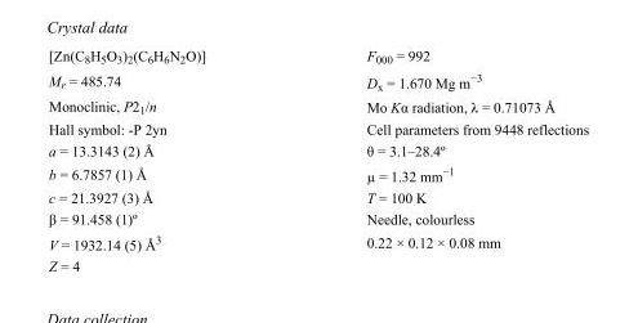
<table><tbody><tr><td>[Zn(C<sub>8</sub>H<sub>5</sub>O<sub>3</sub>)<sub>2</sub>(C<sub>6</sub>H<sub>6</sub>N<sub>2</sub>O)]</td><td>F000 = 992</td></tr><tr><td>M<sub>r</sub> = 485.74</td><td>D<sub>x</sub> = 1.670 Mg m<sup>−3</sup></td></tr><tr><td>Monoclinic, P2<sub>1</sub>/n</td><td>Mo Kα radiation, λ = 0.71073 Å</td></tr><tr><td>Hall symbol: -P 2yn</td><td>Cell parameters from 9448 reflections</td></tr><tr><td>a = 13.3143 (2) Å</td><td>θ = 3.1–28.4º</td></tr><tr><td>b = 6.7857 (1) Å</td><td>µ = 1.32 mm<sup>−1</sup></td></tr><tr><td>c = 21.3927 (3) Å</td><td>T = 100 K</td></tr><tr><td>β = 91.458 (1)º</td><td>Needle, colourless</td></tr><tr><td>V = 1932.14 (5) Å<sup>3</sup></td><td>0.22 × 0.12 × 0.08 mm</td></tr><tr><td>Z = 4</td><td></td></tr></tbody></table>